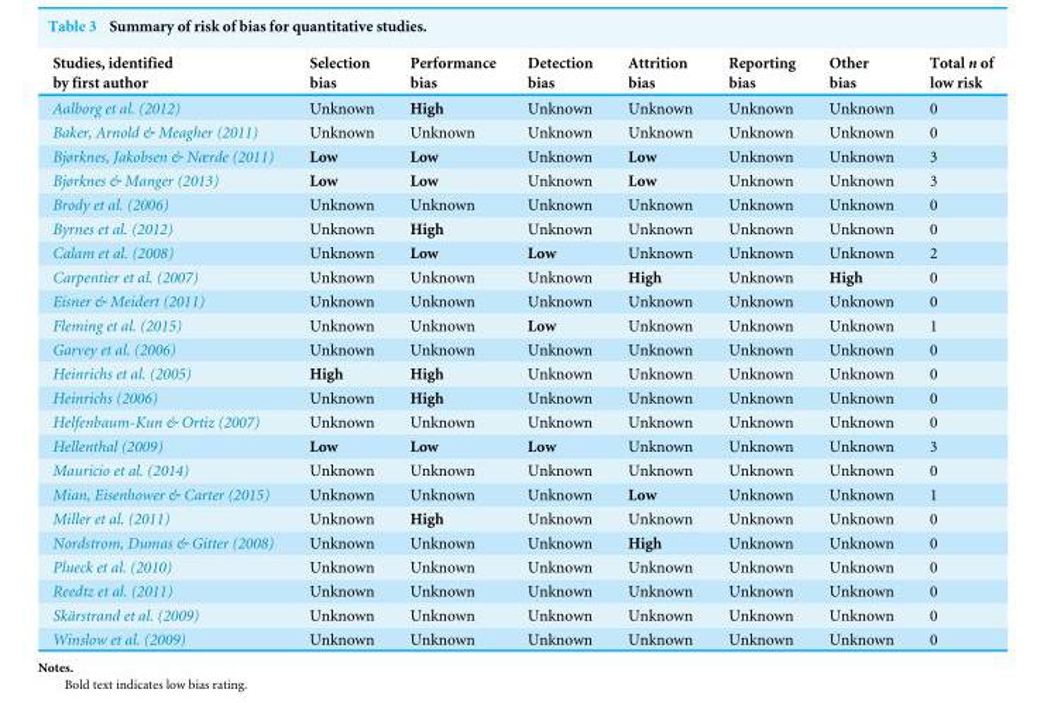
<table><thead><tr><td>Studies, identified by first author</td><td>Selection bias</td><td>Performance bias</td><td>Detection bias</td><td>Attrition bias</td><td>Reporting bias</td><td>Other bias</td><td>Total n of low risk</td></tr></thead><tbody><tr><td>Aalborg et al. (2012)</td><td>Unknown</td><td>High</td><td>Unknown</td><td>Unknown</td><td>Unknown</td><td>Unknown</td><td>0</td></tr><tr><td>Baker, Arnold &amp; Meagher (2011)</td><td>Unknown</td><td>Unknown</td><td>Unknown</td><td>Unknown</td><td>Unknown</td><td>Unknown</td><td>0</td></tr><tr><td>Bjørknes, Jakobsen &amp; Nærde (2011)</td><td>Low</td><td>Low</td><td>Unknown</td><td>Low</td><td>Unknown</td><td>Unknown</td><td>3</td></tr><tr><td>Bjørknes &amp; Manger (2013)</td><td>Low</td><td>Low</td><td>Unknown</td><td>Low</td><td>Unknown</td><td>Unknown</td><td>3</td></tr><tr><td>Brody et al. (2006)</td><td>Unknown</td><td>Unknown</td><td>Unknown</td><td>Unknown</td><td>Unknown</td><td>Unknown</td><td>0</td></tr><tr><td>Byrnes et al. (2012)</td><td>Unknown</td><td>High</td><td>Unknown</td><td>Unknown</td><td>Unknown</td><td>Unknown</td><td>0</td></tr><tr><td>Calam et al. (2008)</td><td>Unknown</td><td>Low</td><td>Low</td><td>Unknown</td><td>Unknown</td><td>Unknown</td><td>2</td></tr><tr><td>Carpentier et al. (2007)</td><td>Unknown</td><td>Unknown</td><td>Unknown</td><td>High</td><td>Unknown</td><td>High</td><td>0</td></tr><tr><td>Eisner &amp; Meidert (2011)</td><td>Unknown</td><td>Unknown</td><td>Unknown</td><td>Unknown</td><td>Unknown</td><td>Unknown</td><td>0</td></tr><tr><td>Fleming et al. (2015)</td><td>Unknown</td><td>Unknown</td><td>Low</td><td>Unknown</td><td>Unknown</td><td>Unknown</td><td>1</td></tr><tr><td>Garvey et al. (2006)</td><td>Unknown</td><td>Unknown</td><td>Unknown</td><td>Unknown</td><td>Unknown</td><td>Unknown</td><td>0</td></tr><tr><td>Heinrichs et al. (2005)</td><td>High</td><td>High</td><td>Unknown</td><td>Unknown</td><td>Unknown</td><td>Unknown</td><td>0</td></tr><tr><td>Heinrichs (2006)</td><td>Unknown</td><td>High</td><td>Unknown</td><td>Unknown</td><td>Unknown</td><td>Unknown</td><td>0</td></tr><tr><td>Helfenbaum-Kun &amp; Ortiz (2007)</td><td>Unknown</td><td>Unknown</td><td>Unknown</td><td>Unknown</td><td>Unknown</td><td>Unknown</td><td>0</td></tr><tr><td>Hellenthal (2009)</td><td>Low</td><td>Low</td><td>Low</td><td>Unknown</td><td>Unknown</td><td>Unknown</td><td>3</td></tr><tr><td>Mauricio et al. (2014)</td><td>Unknown</td><td>Unknown</td><td>Unknown</td><td>Unknown</td><td>Unknown</td><td>Unknown</td><td>0</td></tr><tr><td>Mian, Eisenhower &amp; Carter (2015)</td><td>Unknown</td><td>Unknown</td><td>Unknown</td><td>Low</td><td>Unknown</td><td>Unknown</td><td>1</td></tr><tr><td>Miller et al. (2011)</td><td>Unknown</td><td>High</td><td>Unknown</td><td>Unknown</td><td>Unknown</td><td>Unknown</td><td>0</td></tr><tr><td>Nordstrom, Dumas &amp; Gitter (2008)</td><td>Unknown</td><td>Unknown</td><td>Unknown</td><td>High</td><td>Unknown</td><td>Unknown</td><td>0</td></tr><tr><td>Plueck et al. (2010)</td><td>Unknown</td><td>Unknown</td><td>Unknown</td><td>Unknown</td><td>Unknown</td><td>Unknown</td><td>0</td></tr><tr><td>Reedtz et al. (2011)</td><td>Unknown</td><td>Unknown</td><td>Unknown</td><td>Unknown</td><td>Unknown</td><td>Unknown</td><td>0</td></tr><tr><td>Skärstrand et al. (2009)</td><td>Unknown</td><td>Unknown</td><td>Unknown</td><td>Unknown</td><td>Unknown</td><td>Unknown</td><td>0</td></tr><tr><td>Winslow et al. (2009)</td><td>Unknown</td><td>Unknown</td><td>Unknown</td><td>Unknown</td><td>Unknown</td><td>Unknown</td><td>0</td></tr></tbody></table>